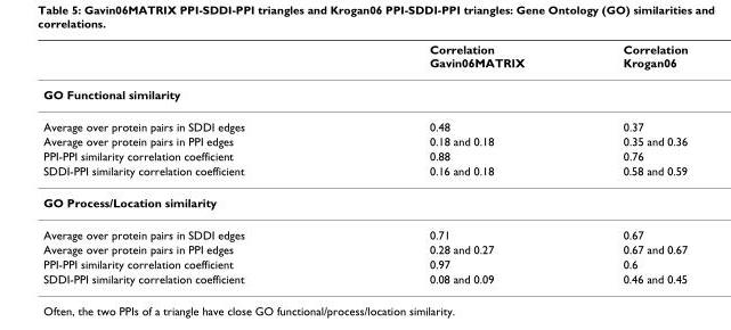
<table><thead><tr><td></td><td>Correlation Gavin06MATRIX</td><td>Correlation Krogan06</td></tr></thead><tbody><tr><td colspan="3">GO Functional similarity</td></tr><tr><td>Average over protein pairs in SDDI edges</td><td>0.48</td><td>0.37</td></tr><tr><td>Average over protein pairs in PPI edges</td><td>0.18 and 0.18</td><td>0.35 and 0.36</td></tr><tr><td>PPI-PPI similarity correlation coefficient</td><td>0.88</td><td>0.76</td></tr><tr><td>SDDI-PPI similarity correlation coefficient</td><td>0.16 and 0.18</td><td>0.58 and 0.59</td></tr><tr><td colspan="3">GO Process/Location similarity</td></tr><tr><td>Average over protein pairs in SDDI edges</td><td>0.71</td><td>0.67</td></tr><tr><td>Average over protein pairs in PPI edges</td><td>0.28 and 0.27</td><td>0.67 and 0.67</td></tr><tr><td>PPI-PPI similarity correlation coefficient</td><td>0.97</td><td>0.6</td></tr><tr><td>SDDI-PPI similarity correlation coefficient</td><td>0.08 and 0.09</td><td>0.46 and 0.45</td></tr></tbody></table>